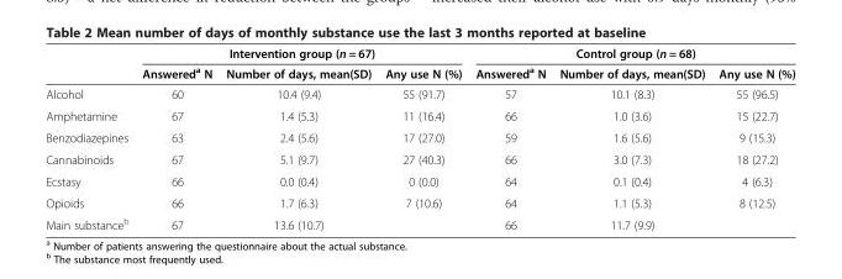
<table><thead><tr><td rowspan="2"></td><td colspan="3">Intervention group (n = 67)</td><td colspan="3">Control group (n = 68)</td></tr><tr><td>Answered<sup>a</sup> N</td><td>Number of days, mean(SD)</td><td>Any use N (%)</td><td>Answered<sup>a</sup> N</td><td>Number of days, mean(SD)</td><td>Any use N (%)</td></tr></thead><tbody><tr><td>Alcohol</td><td>60</td><td>10.4 (9.4)</td><td>55 (91.7)</td><td>57</td><td>10.1 (8.3)</td><td>55 (96.5)</td></tr><tr><td>Amphetamine</td><td>67</td><td>1.4 (5.3)</td><td>11 (16.4)</td><td>66</td><td>1.0 (3.6)</td><td>15 (22.7)</td></tr><tr><td>Benzodiazepines</td><td>63</td><td>2.4 (5.6)</td><td>17 (27.0)</td><td>59</td><td>1.6 (5.6)</td><td>9 (15.3)</td></tr><tr><td>Cannabinoids</td><td>67</td><td>5.1 (9.7)</td><td>27 (40.3)</td><td>66</td><td>3.0 (7.3)</td><td>18 (27.2)</td></tr><tr><td>Ecstasy</td><td>66</td><td>0.0 (0.4)</td><td>0 (0.0)</td><td>64</td><td>0.1 (0.4)</td><td>4 (6.3)</td></tr><tr><td>Opioids</td><td>66</td><td>1.7 (6.3)</td><td>7 (10.6)</td><td>64</td><td>1.1 (5.3)</td><td>8 (12.5)</td></tr><tr><td>Main substance<sup>b</sup></td><td>67</td><td>13.6 (10.7)</td><td></td><td>66</td><td>11.7 (9.9)</td><td></td></tr></tbody></table>